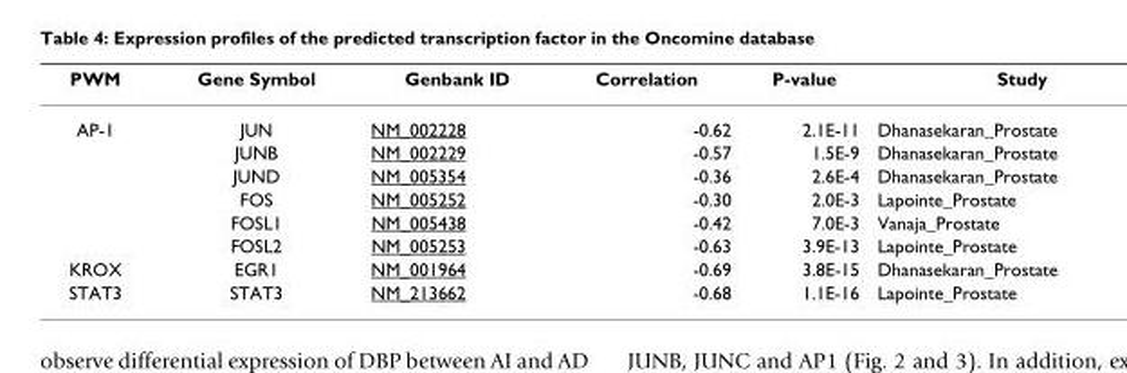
<table><thead><tr><td>PWM</td><td>Gene Symbol</td><td>Genbank ID</td><td>Correlation</td><td>P-value</td><td>Study</td></tr></thead><tbody><tr><td rowspan="6">AP-1</td><td>JUN</td><td>NM_002228</td><td>-0.62</td><td>2.1E-11</td><td>Dhanasekaran_Prostate</td></tr><tr><td>JUNB</td><td>NM_002229</td><td>-0.57</td><td>1.5E-9</td><td>Dhanasekaran_Prostate</td></tr><tr><td>JUND</td><td>NM_005354</td><td>-0.36</td><td>2.6E-4</td><td>Dhanasekaran_Prostate</td></tr><tr><td>FOS</td><td>NM_005252</td><td>-0.30</td><td>2.0E-3</td><td>Lapointe_Prostate</td></tr><tr><td>FOSL1</td><td>NM_005438</td><td>-0.42</td><td>7.0E-3</td><td>Vanaja_Prostate</td></tr><tr><td>FOSL2</td><td>NM_005253</td><td>-0.63</td><td>3.9E-13</td><td>Lapointe_Prostate</td></tr><tr><td>KROX</td><td>EGR1</td><td>NM_001964</td><td>-0.69</td><td>3.8E-15</td><td>Dhanasekaran_Prostate</td></tr><tr><td>STAT3</td><td>STAT3</td><td>NM_213662</td><td>-0.68</td><td>1.1E-16</td><td>Lapointe_Prostate</td></tr></tbody></table>